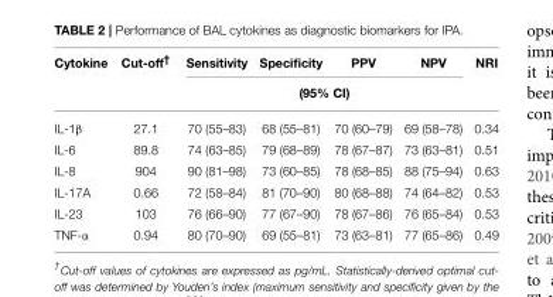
<table><thead><tr><td rowspan="2">Cytokine</td><td rowspan="2">Cut-off<sup>†</sup></td><td>Sensitivity</td><td>Specificity</td><td>PPV</td><td>NPV</td><td rowspan="2">NRI</td></tr><tr><td colspan="4">(95% CI)</td></tr></thead><tbody><tr><td>IL-1β</td><td>27.1</td><td>70 (55–83)</td><td>68 (55–81)</td><td>70 (60–79)</td><td>69 (58–78)</td><td>0.34</td></tr><tr><td>IL-6</td><td>89.8</td><td>74 (63–85)</td><td>79 (68–89)</td><td>78 (67–87)</td><td>73 (63–81)</td><td>0.51</td></tr><tr><td>IL-8</td><td>904</td><td>90 (81–98)</td><td>73 (60–85)</td><td>78 (68–85)</td><td>88 (75–94)</td><td>0.63</td></tr><tr><td>IL-17A</td><td>0.66</td><td>72 (58–84)</td><td>81 (70–90)</td><td>80 (68–88)</td><td>74 (64–82)</td><td>0.53</td></tr><tr><td>IL-23</td><td>103</td><td>76 (66–90)</td><td>77 (67–90)</td><td>78 (67–86)</td><td>76 (65–84)</td><td>0.53</td></tr><tr><td>TNF-α</td><td>0.94</td><td>80 (70–90)</td><td>69 (55–81)</td><td>73 (63–81)</td><td>77 (65–86)</td><td>0.49</td></tr></tbody></table>